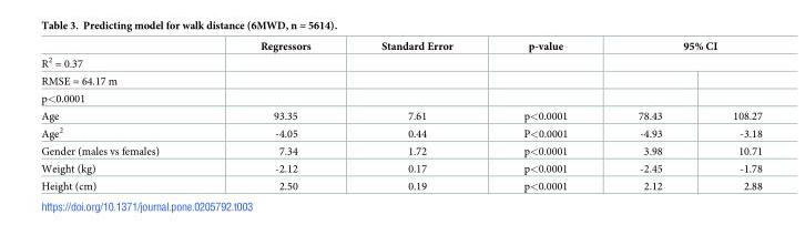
<table><thead><tr><td rowspan="3">R<sup>2</sup> = 0.37 RMSE = 64.17 m</td><td rowspan="3">Regressors</td><td rowspan="3">Standard Error</td><td rowspan="3">p-value</td><td rowspan="2" colspan="2">95% CI</td></tr><tr></tr><tr><td></td><td></td></tr></thead><tbody><tr><td colspan="6">p&lt;0.0001</td></tr><tr><td>Age</td><td>93.35</td><td>7.61</td><td>p&lt;0.0001</td><td>78.43</td><td>108.27</td></tr><tr><td>Age<sup>2</sup></td><td>-4.05</td><td>0.44</td><td>P&lt;0.0001</td><td>-4.93</td><td>-3.18</td></tr><tr><td>Gender (males vs females)</td><td>7.34</td><td>1.72</td><td>p&lt;0.0001</td><td>3.98</td><td>10.71</td></tr><tr><td>Weight (kg)</td><td>-2.12</td><td>0.17</td><td>p&lt;0.0001</td><td>-2.45</td><td>-1.78</td></tr><tr><td>Height (cm)</td><td>2.50</td><td>0.19</td><td>p&lt;0.0001</td><td>2.12</td><td>2.88</td></tr></tbody></table>